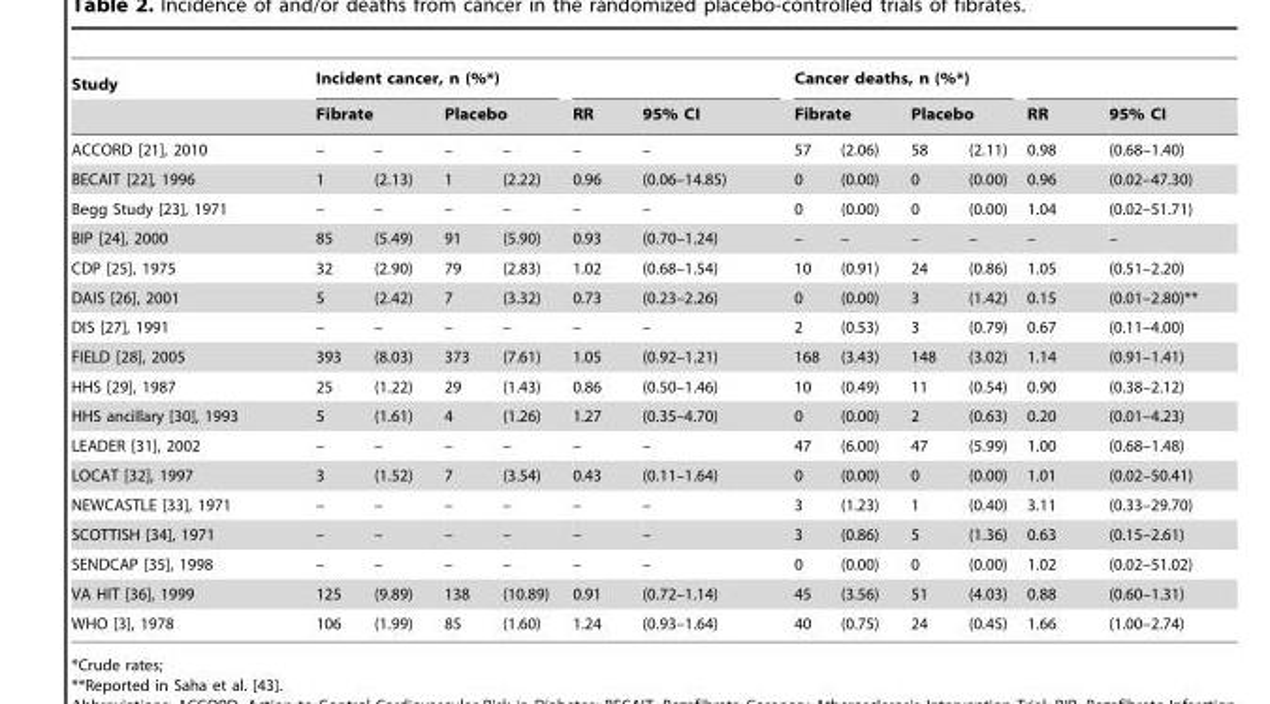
<table><thead><tr><td rowspan="3">Study ACCORD [21], 2010</td><td colspan="4">Incident cancer, n (%*)</td><td rowspan="3">RR –</td><td rowspan="3">95% CI –</td><td colspan="4">Cancer deaths, n (%*)</td><td rowspan="3">RR 0.98</td><td rowspan="3">95% CI (0.68–1.40)</td></tr><tr><td colspan="2">Fibrate</td><td colspan="2">Placebo</td><td colspan="2">Fibrate</td><td colspan="2">Placebo</td></tr><tr><td>–</td><td>–</td><td>–</td><td>–</td><td>57</td><td>(2.06)</td><td>58</td><td>(2.11)</td></tr></thead><tbody><tr><td>BECAIT [22], 1996</td><td>1</td><td>(2.13)</td><td>1</td><td>(2.22)</td><td>0.96</td><td>(0.06–14.85)</td><td>0</td><td>(0.00)</td><td>0</td><td>(0.00)</td><td>0.96</td><td>(0.02–47.30)</td></tr><tr><td>Begg Study [23], 1971</td><td>–</td><td>–</td><td>–</td><td>–</td><td>–</td><td>–</td><td>0</td><td>(0.00)</td><td>0</td><td>(0.00)</td><td>1.04</td><td>(0.02–51.71)</td></tr><tr><td>BIP [24], 2000</td><td>85</td><td>(5.49)</td><td>91</td><td>(5.90)</td><td>0.93</td><td>(0.70–1.24)</td><td>–</td><td>–</td><td>–</td><td>–</td><td>–</td><td>–</td></tr><tr><td>CDP [25], 1975</td><td>32</td><td>(2.90)</td><td>79</td><td>(2.83)</td><td>1.02</td><td>(0.68–1.54)</td><td>10</td><td>(0.91)</td><td>24</td><td>(0.86)</td><td>1.05</td><td>(0.51–2.20)</td></tr><tr><td>DAIS [26], 2001</td><td>5</td><td>(2.42)</td><td>7</td><td>(3.32)</td><td>0.73</td><td>(0.23–2.26)</td><td>0</td><td>(0.00)</td><td>3</td><td>(1.42)</td><td>0.15</td><td>(0.01–2.80)**</td></tr><tr><td>DIS [27], 1991</td><td>–</td><td>–</td><td>–</td><td>–</td><td>–</td><td>–</td><td>2</td><td>(0.53)</td><td>3</td><td>(0.79)</td><td>0.67</td><td>(0.11–4.00)</td></tr><tr><td>FIELD [28], 2005</td><td>393</td><td>(8.03)</td><td>373</td><td>(7.61)</td><td>1.05</td><td>(0.92–1.21)</td><td>168</td><td>(3.43)</td><td>148</td><td>(3.02)</td><td>1.14</td><td>(0.91–1.41)</td></tr><tr><td>HHS [29], 1987</td><td>25</td><td>(1.22)</td><td>29</td><td>(1.43)</td><td>0.86</td><td>(0.50–1.46)</td><td>10</td><td>(0.49)</td><td>11</td><td>(0.54)</td><td>0.90</td><td>(0.38–2.12)</td></tr><tr><td>HHS ancillary [30], 1993</td><td>5</td><td>(1.61)</td><td>4</td><td>(1.26)</td><td>1.27</td><td>(0.35–4.70)</td><td>0</td><td>(0.00)</td><td>2</td><td>(0.63)</td><td>0.20</td><td>(0.01–4.23)</td></tr><tr><td>LEADER [31], 2002</td><td>–</td><td>–</td><td>–</td><td>–</td><td>–</td><td>–</td><td>47</td><td>(6.00)</td><td>47</td><td>(5.99)</td><td>1.00</td><td>(0.68–1.48)</td></tr><tr><td>LOCAT [32], 1997</td><td>3</td><td>(1.52)</td><td>7</td><td>(3.54)</td><td>0.43</td><td>(0.11–1.64)</td><td>0</td><td>(0.00)</td><td>0</td><td>(0.00)</td><td>1.01</td><td>(0.02–50.41)</td></tr><tr><td>NEWCASTLE [33], 1971</td><td>–</td><td>–</td><td>–</td><td>–</td><td>–</td><td>–</td><td>3</td><td>(1.23)</td><td>1</td><td>(0.40)</td><td>3.11</td><td>(0.33–29.70)</td></tr><tr><td>SCOTTISH [34], 1971</td><td>–</td><td>–</td><td>–</td><td>–</td><td>–</td><td>–</td><td>3</td><td>(0.86)</td><td>5</td><td>(1.36)</td><td>0.63</td><td>(0.15–2.61)</td></tr><tr><td>SENDCAP [35], 1998</td><td>–</td><td>–</td><td>–</td><td>–</td><td>–</td><td>–</td><td>0</td><td>(0.00)</td><td>0</td><td>(0.00)</td><td>1.02</td><td>(0.02–51.02)</td></tr><tr><td>VA HIT [36], 1999</td><td>125</td><td>(9.89)</td><td>138</td><td>(10.89)</td><td>0.91</td><td>(0.72–1.14)</td><td>45</td><td>(3.56)</td><td>51</td><td>(4.03)</td><td>0.88</td><td>(0.60–1.31)</td></tr><tr><td>WHO [3], 1978</td><td>106</td><td>(1.99)</td><td>85</td><td>(1.60)</td><td>1.24</td><td>(0.93–1.64)</td><td>40</td><td>(0.75)</td><td>24</td><td>(0.45)</td><td>1.66</td><td>(1.00–2.74)</td></tr></tbody></table>